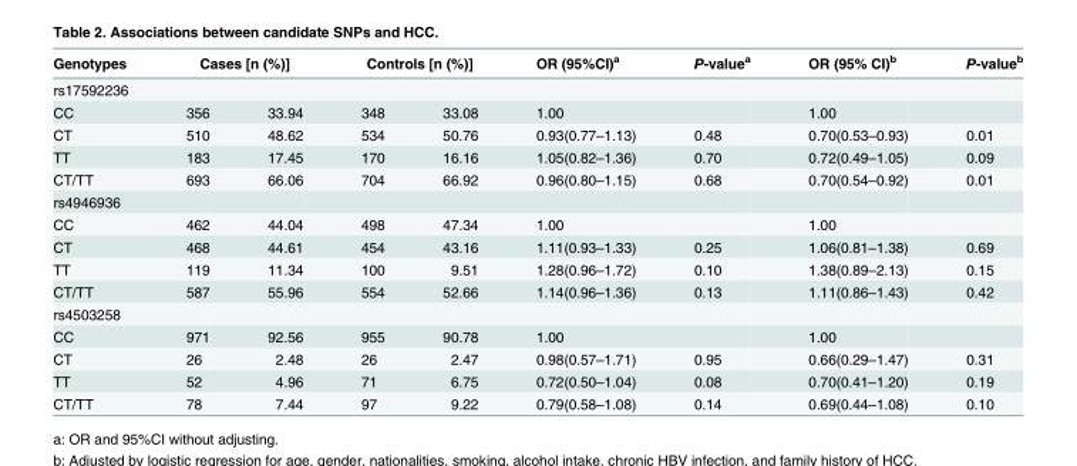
<table><thead><tr><td rowspan="2">Genotypes rs17592236</td><td colspan="2">Cases [n (%)]</td><td colspan="2">Controls [n (%)]</td><td rowspan="2">OR (95%CI)<sup>a</sup></td><td rowspan="2">P-value<sup>a</sup></td><td rowspan="2">OR (95% CI)<sup>b</sup></td><td rowspan="2">P-value<sup>b</sup></td></tr><tr><td></td><td></td><td></td><td></td></tr></thead><tbody><tr><td>CC</td><td>356</td><td>33.94</td><td>348</td><td>33.08</td><td>1.00</td><td></td><td>1.00</td><td></td></tr><tr><td>CT</td><td>510</td><td>48.62</td><td>534</td><td>50.76</td><td>0.93(0.77–1.13)</td><td>0.48</td><td>0.70(0.53–0.93)</td><td>0.01</td></tr><tr><td>TT</td><td>183</td><td>17.45</td><td>170</td><td>16.16</td><td>1.05(0.82–1.36)</td><td>0.70</td><td>0.72(0.49–1.05)</td><td>0.09</td></tr><tr><td>CT/TT</td><td>693</td><td>66.06</td><td>704</td><td>66.92</td><td>0.96(0.80–1.15)</td><td>0.68</td><td>0.70(0.54–0.92)</td><td>0.01</td></tr><tr><td colspan="9">rs4946936</td></tr><tr><td>CC</td><td>462</td><td>44.04</td><td>498</td><td>47.34</td><td>1.00</td><td></td><td>1.00</td><td></td></tr><tr><td>CT</td><td>468</td><td>44.61</td><td>454</td><td>43.16</td><td>1.11(0.93–1.33)</td><td>0.25</td><td>1.06(0.81–1.38)</td><td>0.69</td></tr><tr><td>TT</td><td>119</td><td>11.34</td><td>100</td><td>9.51</td><td>1.28(0.96–1.72)</td><td>0.10</td><td>1.38(0.89–2.13)</td><td>0.15</td></tr><tr><td>CT/TT</td><td>587</td><td>55.96</td><td>554</td><td>52.66</td><td>1.14(0.96–1.36)</td><td>0.13</td><td>1.11(0.86–1.43)</td><td>0.42</td></tr><tr><td colspan="9">rs4503258</td></tr><tr><td>CC</td><td>971</td><td>92.56</td><td>955</td><td>90.78</td><td>1.00</td><td></td><td>1.00</td><td></td></tr><tr><td>CT</td><td>26</td><td>2.48</td><td>26</td><td>2.47</td><td>0.98(0.57–1.71)</td><td>0.95</td><td>0.66(0.29–1.47)</td><td>0.31</td></tr><tr><td>TT</td><td>52</td><td>4.96</td><td>71</td><td>6.75</td><td>0.72(0.50–1.04)</td><td>0.08</td><td>0.70(0.41–1.20)</td><td>0.19</td></tr><tr><td>CT/TT</td><td>78</td><td>7.44</td><td>97</td><td>9.22</td><td>0.79(0.58–1.08)</td><td>0.14</td><td>0.69(0.44–1.08)</td><td>0.10</td></tr></tbody></table>